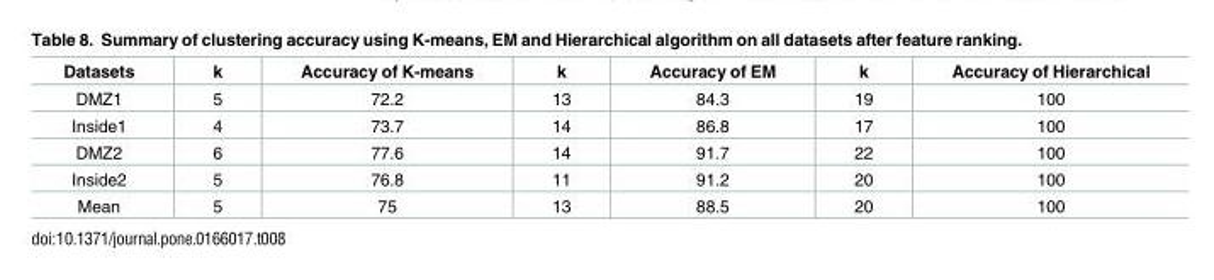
<table><thead><tr><td>Datasets</td><td>k</td><td>Accuracy of K-means</td><td>k</td><td>Accuracy of EM</td><td>k</td><td>Accuracy of Hierarchical</td></tr></thead><tbody><tr><td>DMZ1</td><td>5</td><td>72.2</td><td>13</td><td>84.3</td><td>19</td><td>100</td></tr><tr><td>Inside1</td><td>4</td><td>73.7</td><td>14</td><td>86.8</td><td>17</td><td>100</td></tr><tr><td>DMZ2</td><td>6</td><td>77.6</td><td>14</td><td>91.7</td><td>22</td><td>100</td></tr><tr><td>Inside2</td><td>5</td><td>76.8</td><td>11</td><td>91.2</td><td>20</td><td>100</td></tr><tr><td>Mean</td><td>5</td><td>75</td><td>13</td><td>88.5</td><td>20</td><td>100</td></tr></tbody></table>